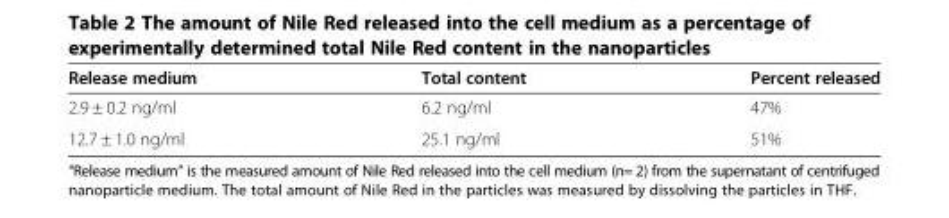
<table><thead><tr><td>Release medium</td><td>Total content</td><td>Percent released</td></tr></thead><tbody><tr><td>2.9 ± 0.2 ng/ml</td><td>6.2 ng/ml</td><td>47%</td></tr><tr><td>12.7 ± 1.0 ng/ml</td><td>25.1 ng/ml</td><td>51%</td></tr></tbody></table>